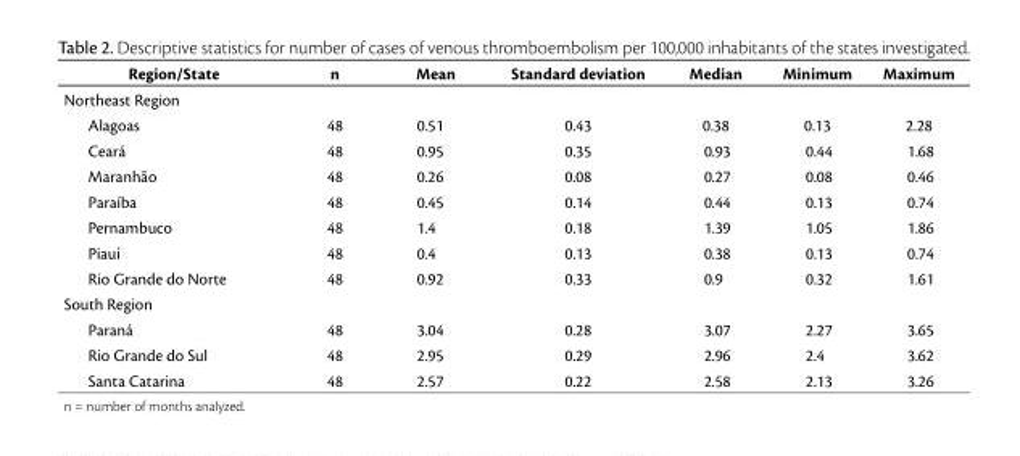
<table><thead><tr><td>Region/State</td><td>n</td><td>Mean</td><td>Standard deviation</td><td>Median</td><td>Minimum</td><td>Maximum</td></tr></thead><tbody><tr><td colspan="7">Northeast Region</td></tr><tr><td>Alagoas</td><td>48</td><td>0.51</td><td>0.43</td><td>0.38</td><td>0.13</td><td>2.28</td></tr><tr><td>Ceará</td><td>48</td><td>0.95</td><td>0.35</td><td>0.93</td><td>0.44</td><td>1.68</td></tr><tr><td>Maranhão</td><td>48</td><td>0.26</td><td>0.08</td><td>0.27</td><td>0.08</td><td>0.46</td></tr><tr><td>Paraíba</td><td>48</td><td>0.45</td><td>0.14</td><td>0.44</td><td>0.13</td><td>0.74</td></tr><tr><td>Pernambuco</td><td>48</td><td>1.4</td><td>0.18</td><td>1.39</td><td>1.05</td><td>1.86</td></tr><tr><td>Piauí</td><td>48</td><td>0.4</td><td>0.13</td><td>0.38</td><td>0.13</td><td>0.74</td></tr><tr><td>Rio Grande do Norte</td><td>48</td><td>0.92</td><td>0.33</td><td>0.9</td><td>0.32</td><td>1.61</td></tr><tr><td colspan="7">South Region</td></tr><tr><td>Paraná</td><td>48</td><td>3.04</td><td>0.28</td><td>3.07</td><td>2.27</td><td>3.65</td></tr><tr><td>Rio Grande do Sul</td><td>48</td><td>2.95</td><td>0.29</td><td>2.96</td><td>2.4</td><td>3.62</td></tr><tr><td>Santa Catarina</td><td>48</td><td>2.57</td><td>0.22</td><td>2.58</td><td>2.13</td><td>3.26</td></tr></tbody></table>